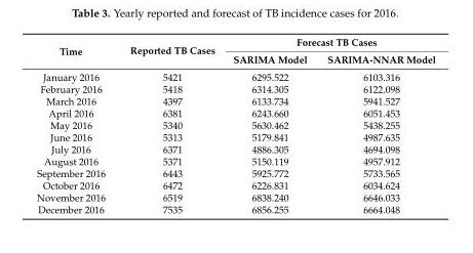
<table><thead><tr><td rowspan="2">Time</td><td rowspan="2">Reported TB Cases</td><td colspan="2">Forecast TB Cases</td></tr><tr><td>SARIMA Model</td><td>SARIMA-NNAR Model</td></tr></thead><tbody><tr><td>January 2016</td><td>5421</td><td>6295.522</td><td>6103.316</td></tr><tr><td>February 2016</td><td>5418</td><td>6314.305</td><td>6122.098</td></tr><tr><td>March 2016</td><td>4397</td><td>6133.734</td><td>5941.527</td></tr><tr><td>April 2016</td><td>6381</td><td>6243.660</td><td>6051.453</td></tr><tr><td>May 2016</td><td>5340</td><td>5630.462</td><td>5438.255</td></tr><tr><td>June 2016</td><td>5313</td><td>5179.841</td><td>4987.635</td></tr><tr><td>July 2016</td><td>6371</td><td>4886.305</td><td>4694.098</td></tr><tr><td>August 2016</td><td>5371</td><td>5150.119</td><td>4957.912</td></tr><tr><td>September 2016</td><td>6443</td><td>5925.772</td><td>5733.565</td></tr><tr><td>October 2016</td><td>6472</td><td>6226.831</td><td>6034.624</td></tr><tr><td>November 2016</td><td>6519</td><td>6838.240</td><td>6646.033</td></tr><tr><td>December 2016</td><td>7535</td><td>6856.255</td><td>6664.048</td></tr></tbody></table>